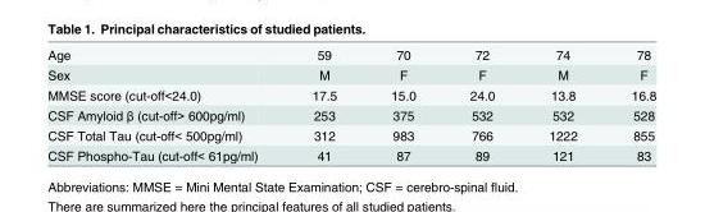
<table><tbody><tr><td>Age</td><td>59</td><td>70</td><td>72</td><td>74</td><td>78</td></tr><tr><td>Sex</td><td>M</td><td>F</td><td>F</td><td>M</td><td>F</td></tr><tr><td>MMSE score (cut-off&lt;24.0)</td><td>17.5</td><td>15.0</td><td>24.0</td><td>13.8</td><td>16.8</td></tr><tr><td>CSF Amyloid β (cut-off&gt; 600pg/ml)</td><td>253</td><td>375</td><td>532</td><td>532</td><td>528</td></tr><tr><td>CSF Total Tau (cut-off&lt; 500pg/ml)</td><td>312</td><td>983</td><td>766</td><td>1222</td><td>855</td></tr><tr><td>CSF Phospho-Tau (cut-off&lt; 61pg/ml)</td><td>41</td><td>87</td><td>89</td><td>121</td><td>83</td></tr></tbody></table>